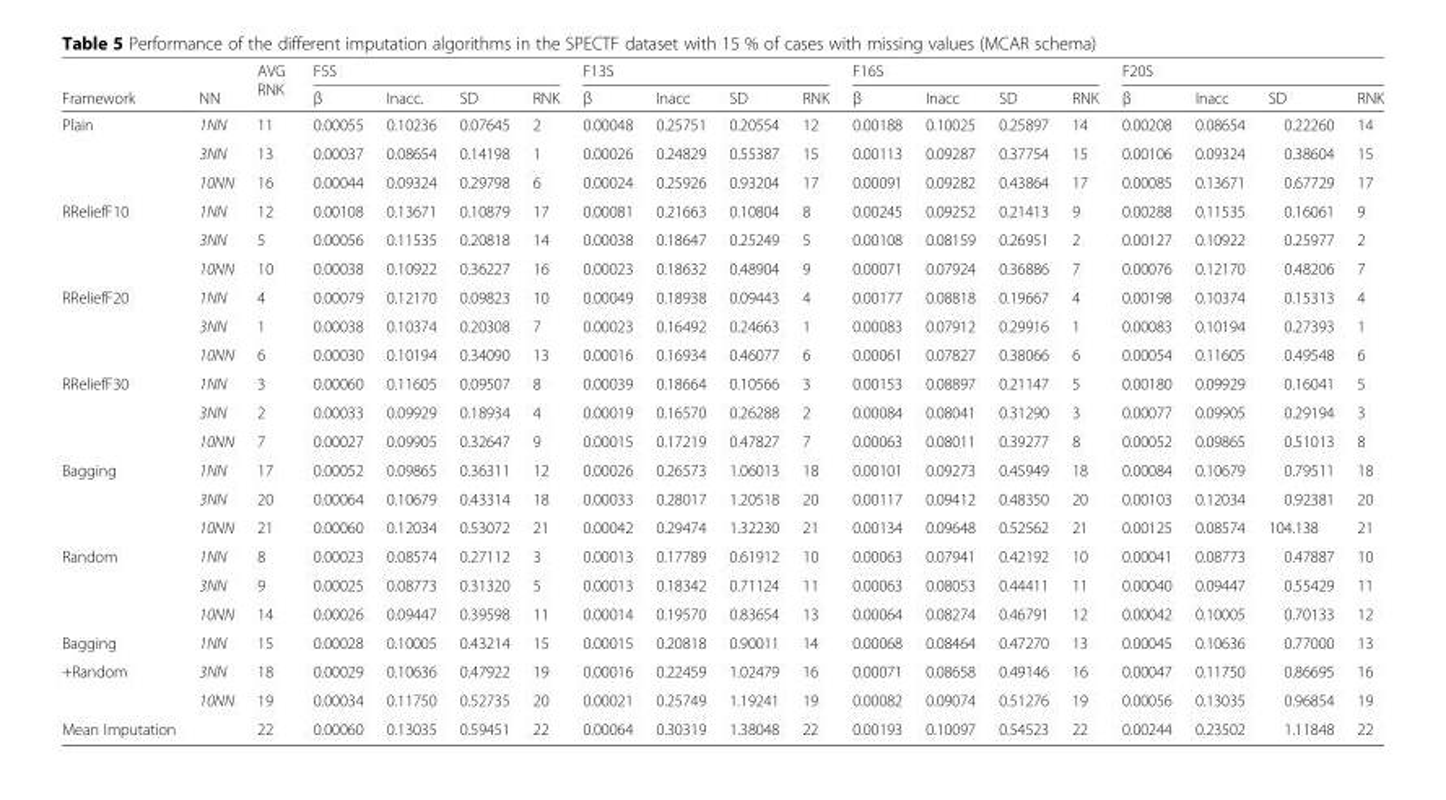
<table><thead><tr><td rowspan="2">Framework</td><td rowspan="2">NN</td><td rowspan="2">AVG RNK</td><td colspan="4">F5S</td><td colspan="4">F13S</td><td colspan="4">F16S</td><td colspan="4">F20S</td></tr><tr><td>β</td><td>Inacc.</td><td>SD</td><td>RNK</td><td>β</td><td>Inacc</td><td>SD</td><td>RNK</td><td>β</td><td>Inacc</td><td>SD</td><td>RNK</td><td>β</td><td>Inacc</td><td>SD</td><td>RNK</td></tr></thead><tbody><tr><td rowspan="3">Plain</td><td>1NN</td><td>11</td><td>0.00055</td><td>0.10236</td><td>0.07645</td><td>2</td><td>0.00048</td><td>0.25751</td><td>0.20554</td><td>12</td><td>0.00188</td><td>0.10025</td><td>0.25897</td><td>14</td><td>0.00208</td><td>0.08654</td><td>0.22260</td><td>14</td></tr><tr><td>3NN</td><td>13</td><td>0.00037</td><td>0.08654</td><td>0.14198</td><td>1</td><td>0.00026</td><td>0.24829</td><td>0.55387</td><td>15</td><td>0.00113</td><td>0.09287</td><td>0.37754</td><td>15</td><td>0.00106</td><td>0.09324</td><td>0.38604</td><td>15</td></tr><tr><td>10NN</td><td>16</td><td>0.00044</td><td>0.09324</td><td>0.29798</td><td>6</td><td>0.00024</td><td>0.25926</td><td>0.93204</td><td>17</td><td>0.00091</td><td>0.09282</td><td>0.43864</td><td>17</td><td>0.00085</td><td>0.13671</td><td>0.67729</td><td>17</td></tr><tr><td rowspan="3">RReliefF10</td><td>1NN</td><td>12</td><td>0.00108</td><td>0.13671</td><td>0.10879</td><td>17</td><td>0.00081</td><td>0.21663</td><td>0.10804</td><td>8</td><td>0.00245</td><td>0.09252</td><td>0.21413</td><td>9</td><td>0.00288</td><td>0.11535</td><td>0.16061</td><td>9</td></tr><tr><td>3NN</td><td>5</td><td>0.00056</td><td>0.11535</td><td>0.20818</td><td>14</td><td>0.00038</td><td>0.18647</td><td>0.25249</td><td>5</td><td>0.00108</td><td>0.08159</td><td>0.26951</td><td>2</td><td>0.00127</td><td>0.10922</td><td>0.25977</td><td>2</td></tr><tr><td>10NN</td><td>10</td><td>0.00038</td><td>0.10922</td><td>0.36227</td><td>16</td><td>0.00023</td><td>0.18632</td><td>0.48904</td><td>9</td><td>0.00071</td><td>0.07924</td><td>0.36886</td><td>7</td><td>0.00076</td><td>0.12170</td><td>0.48206</td><td>7</td></tr><tr><td rowspan="3">RReliefF20</td><td>1NN</td><td>4</td><td>0.00079</td><td>0.12170</td><td>0.09823</td><td>10</td><td>0.00049</td><td>0.18938</td><td>0.09443</td><td>4</td><td>0.00177</td><td>0.08818</td><td>0.19667</td><td>4</td><td>0.00198</td><td>0.10374</td><td>0.15313</td><td>4</td></tr><tr><td>3NN</td><td>1</td><td>0.00038</td><td>0.10374</td><td>0.20308</td><td>7</td><td>0.00023</td><td>0.16492</td><td>0.24663</td><td>1</td><td>0.00083</td><td>0.07912</td><td>0.29916</td><td>1</td><td>0.00083</td><td>0.10194</td><td>0.27393</td><td>1</td></tr><tr><td>10NN</td><td>6</td><td>0.00030</td><td>0.10194</td><td>0.34090</td><td>13</td><td>0.00016</td><td>0.16934</td><td>0.46077</td><td>6</td><td>0.00061</td><td>0.07827</td><td>0.38066</td><td>6</td><td>0.00054</td><td>0.11605</td><td>0.49548</td><td>6</td></tr><tr><td rowspan="3">RReliefF30</td><td>1NN</td><td>3</td><td>0.00060</td><td>0.11605</td><td>0.09507</td><td>8</td><td>0.00039</td><td>0.18664</td><td>0.10566</td><td>3</td><td>0.00153</td><td>0.08897</td><td>0.21147</td><td>5</td><td>0.00180</td><td>0.09929</td><td>0.16041</td><td>5</td></tr><tr><td>3NN</td><td>2</td><td>0.00033</td><td>0.09929</td><td>0.18934</td><td>4</td><td>0.00019</td><td>0.16570</td><td>0.26288</td><td>2</td><td>0.00084</td><td>0.08041</td><td>0.31290</td><td>3</td><td>0.00077</td><td>0.09905</td><td>0.29194</td><td>3</td></tr><tr><td>10NN</td><td>7</td><td>0.00027</td><td>0.09905</td><td>0.32647</td><td>9</td><td>0.00015</td><td>0.17219</td><td>0.47827</td><td>7</td><td>0.00063</td><td>0.08011</td><td>0.39277</td><td>8</td><td>0.00052</td><td>0.09865</td><td>0.51013</td><td>8</td></tr><tr><td rowspan="3">Bagging</td><td>1NN</td><td>17</td><td>0.00052</td><td>0.09865</td><td>0.36311</td><td>12</td><td>0.00026</td><td>0.26573</td><td>1.06013</td><td>18</td><td>0.00101</td><td>0.09273</td><td>0.45949</td><td>18</td><td>0.00084</td><td>0.10679</td><td>0.79511</td><td>18</td></tr><tr><td>3NN</td><td>20</td><td>0.00064</td><td>0.10679</td><td>0.43314</td><td>18</td><td>0.00033</td><td>0.28017</td><td>1.20518</td><td>20</td><td>0.00117</td><td>0.09412</td><td>0.48350</td><td>20</td><td>0.00103</td><td>0.12034</td><td>0.92381</td><td>20</td></tr><tr><td>10NN</td><td>21</td><td>0.00060</td><td>0.12034</td><td>0.53072</td><td>21</td><td>0.00042</td><td>0.29474</td><td>1.32230</td><td>21</td><td>0.00134</td><td>0.09648</td><td>0.52562</td><td>21</td><td>0.00125</td><td>0.08574</td><td>104.138</td><td>21</td></tr><tr><td rowspan="3">Random</td><td>1NN</td><td>8</td><td>0.00023</td><td>0.08574</td><td>0.27112</td><td>3</td><td>0.00013</td><td>0.17789</td><td>0.61912</td><td>10</td><td>0.00063</td><td>0.07941</td><td>0.42192</td><td>10</td><td>0.00041</td><td>0.08773</td><td>0.47887</td><td>10</td></tr><tr><td>3NN</td><td>9</td><td>0.00025</td><td>0.08773</td><td>0.31320</td><td>5</td><td>0.00013</td><td>0.18342</td><td>0.71124</td><td>11</td><td>0.00063</td><td>0.08053</td><td>0.44411</td><td>11</td><td>0.00040</td><td>0.09447</td><td>0.55429</td><td>11</td></tr><tr><td>10NN</td><td>14</td><td>0.00026</td><td>0.09447</td><td>0.39598</td><td>11</td><td>0.00014</td><td>0.19570</td><td>0.83654</td><td>13</td><td>0.00064</td><td>0.08274</td><td>0.46791</td><td>12</td><td>0.00042</td><td>0.10005</td><td>0.70133</td><td>12</td></tr><tr><td>Bagging</td><td>1NN</td><td>15</td><td>0.00028</td><td>0.10005</td><td>0.43214</td><td>15</td><td>0.00015</td><td>0.20818</td><td>0.90011</td><td>14</td><td>0.00068</td><td>0.08464</td><td>0.47270</td><td>13</td><td>0.00045</td><td>0.10636</td><td>0.77000</td><td>13</td></tr><tr><td rowspan="2">+Random</td><td>3NN</td><td>18</td><td>0.00029</td><td>0.10636</td><td>0.47922</td><td>19</td><td>0.00016</td><td>0.22459</td><td>1.02479</td><td>16</td><td>0.00071</td><td>0.08658</td><td>0.49146</td><td>16</td><td>0.00047</td><td>0.11750</td><td>0.86695</td><td>16</td></tr><tr><td>10NN</td><td>19</td><td>0.00034</td><td>0.11750</td><td>0.52735</td><td>20</td><td>0.00021</td><td>0.25749</td><td>1.19241</td><td>19</td><td>0.00082</td><td>0.09074</td><td>0.51276</td><td>19</td><td>0.00056</td><td>0.13035</td><td>0.96854</td><td>19</td></tr><tr><td>Mean Imputation</td><td></td><td>22</td><td>0.00060</td><td>0.13035</td><td>0.59451</td><td>22</td><td>0.00064</td><td>0.30319</td><td>1.38048</td><td>22</td><td>0.00193</td><td>0.10097</td><td>0.54523</td><td>22</td><td>0.00244</td><td>0.23502</td><td>1.11848</td><td>22</td></tr></tbody></table>